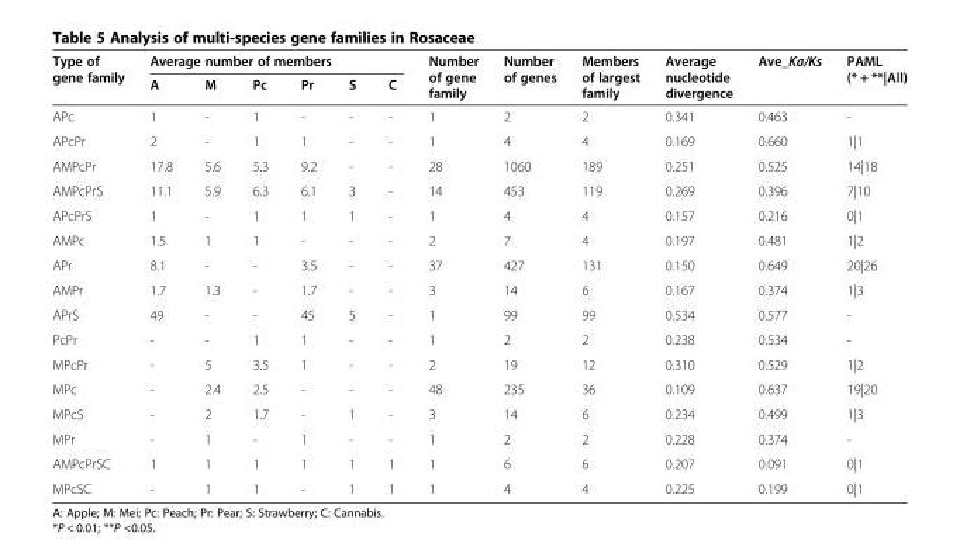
<table><thead><tr><td rowspan="2">Type of gene family</td><td colspan="6">Average number of members</td><td rowspan="2">Number of gene family</td><td rowspan="2">Number of genes</td><td rowspan="2">Members of largest family</td><td rowspan="2">Average nucleotide divergence</td><td rowspan="2">Ave_Ka/Ks</td><td rowspan="2">PAML (* + **|All)</td></tr><tr><td>A</td><td>M</td><td>Pc</td><td>Pr</td><td>S</td><td>C</td></tr></thead><tbody><tr><td>APc</td><td>1</td><td>-</td><td>1</td><td>-</td><td>-</td><td>-</td><td>1</td><td>2</td><td>2</td><td>0.341</td><td>0.463</td><td>-</td></tr><tr><td>APcPr</td><td>2</td><td>-</td><td>1</td><td>1</td><td>-</td><td>-</td><td>1</td><td>4</td><td>4</td><td>0.169</td><td>0.660</td><td>1|1</td></tr><tr><td>AMPcPr</td><td>17.8</td><td>5.6</td><td>5.3</td><td>9.2</td><td>-</td><td>-</td><td>28</td><td>1060</td><td>189</td><td>0.251</td><td>0.525</td><td>14|18</td></tr><tr><td>AMPcPrS</td><td>11.1</td><td>5.9</td><td>6.3</td><td>6.1</td><td>3</td><td>-</td><td>14</td><td>453</td><td>119</td><td>0.269</td><td>0.396</td><td>7|10</td></tr><tr><td>APcPrS</td><td>1</td><td>-</td><td>1</td><td>1</td><td>1</td><td>-</td><td>1</td><td>4</td><td>4</td><td>0.157</td><td>0.216</td><td>0|1</td></tr><tr><td>AMPc</td><td>1.5</td><td>1</td><td>1</td><td>-</td><td>-</td><td>-</td><td>2</td><td>7</td><td>4</td><td>0.197</td><td>0.481</td><td>1|2</td></tr><tr><td>APr</td><td>8.1</td><td>-</td><td>-</td><td>3.5</td><td>-</td><td>-</td><td>37</td><td>427</td><td>131</td><td>0.150</td><td>0.649</td><td>20|26</td></tr><tr><td>AMPr</td><td>1.7</td><td>1.3</td><td>-</td><td>1.7</td><td>-</td><td>-</td><td>3</td><td>14</td><td>6</td><td>0.167</td><td>0.374</td><td>1|3</td></tr><tr><td>APrS</td><td>49</td><td>-</td><td>-</td><td>45</td><td>5</td><td>-</td><td>1</td><td>99</td><td>99</td><td>0.534</td><td>0.577</td><td>-</td></tr><tr><td>PcPr</td><td>-</td><td>-</td><td>1</td><td>1</td><td>-</td><td>-</td><td>1</td><td>2</td><td>2</td><td>0.238</td><td>0.534</td><td>-</td></tr><tr><td>MPcPr</td><td>-</td><td>5</td><td>3.5</td><td>1</td><td>-</td><td>-</td><td>2</td><td>19</td><td>12</td><td>0.310</td><td>0.529</td><td>1|2</td></tr><tr><td>MPc</td><td>-</td><td>2.4</td><td>2.5</td><td>-</td><td>-</td><td>-</td><td>48</td><td>235</td><td>36</td><td>0.109</td><td>0.637</td><td>19|20</td></tr><tr><td>MPcS</td><td>-</td><td>2</td><td>1.7</td><td>-</td><td>1</td><td>-</td><td>3</td><td>14</td><td>6</td><td>0.234</td><td>0.499</td><td>1|3</td></tr><tr><td>MPr</td><td>-</td><td>1</td><td>-</td><td>1</td><td>-</td><td>-</td><td>1</td><td>2</td><td>2</td><td>0.228</td><td>0.374</td><td>-</td></tr><tr><td>AMPcPrSC</td><td>1</td><td>1</td><td>1</td><td>1</td><td>1</td><td>1</td><td>1</td><td>6</td><td>6</td><td>0.207</td><td>0.091</td><td>0|1</td></tr><tr><td>MPcSC</td><td>-</td><td>1</td><td>1</td><td>-</td><td>1</td><td>1</td><td>1</td><td>4</td><td>4</td><td>0.225</td><td>0.199</td><td>0|1</td></tr></tbody></table>